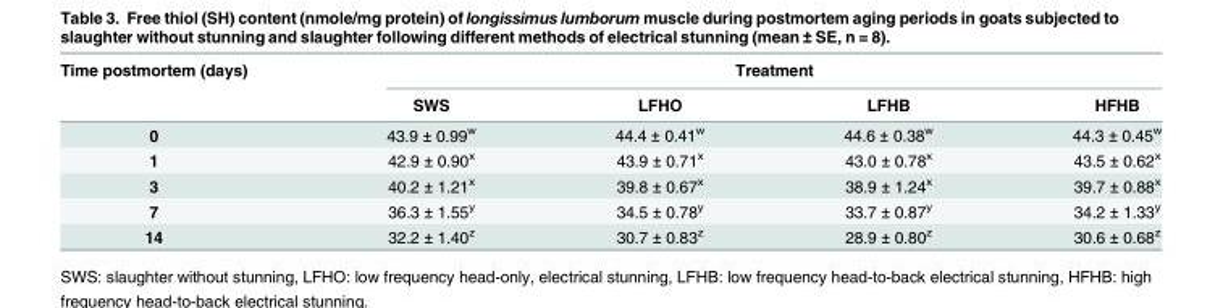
<table><thead><tr><td rowspan="2">Time postmortem (days)</td><td colspan="4">Treatment</td></tr><tr><td>SWS</td><td>LFHO</td><td>LFHB</td><td>HFHB</td></tr></thead><tbody><tr><td>0</td><td>43.9 ± 0.99<sup>w</sup></td><td>44.4 ± 0.41<sup>w</sup></td><td>44.6 ± 0.38<sup>w</sup></td><td>44.3 ± 0.45<sup>w</sup></td></tr><tr><td>1</td><td>42.9 ± 0.90<sup>x</sup></td><td>43.9 ± 0.71<sup>x</sup></td><td>43.0 ± 0.78<sup>x</sup></td><td>43.5 ± 0.62<sup>x</sup></td></tr><tr><td>3</td><td>40.2 ± 1.21<sup>x</sup></td><td>39.8 ± 0.67<sup>x</sup></td><td>38.9 ± 1.24<sup>x</sup></td><td>39.7 ± 0.88<sup>x</sup></td></tr><tr><td>7</td><td>36.3 ± 1.55<sup>y</sup></td><td>34.5 ± 0.78<sup>y</sup></td><td>33.7 ± 0.87<sup>y</sup></td><td>34.2 ± 1.33<sup>y</sup></td></tr><tr><td>14</td><td>32.2 ± 1.40<sup>z</sup></td><td>30.7 ± 0.83<sup>z</sup></td><td>28.9 ± 0.80<sup>z</sup></td><td>30.6 ± 0.68<sup>z</sup></td></tr></tbody></table>